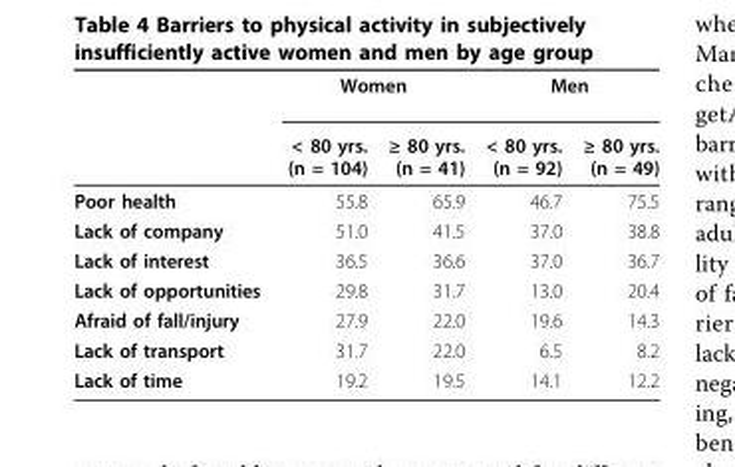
<table><thead><tr><td rowspan="2"></td><td colspan="2">Women</td><td colspan="2">Men</td></tr><tr><td>&lt; 80 yrs. (n = 104)</td><td>≥ 80 yrs. (n = 41)</td><td>&lt; 80 yrs. (n = 92)</td><td>≥ 80 yrs. (n = 49)</td></tr></thead><tbody><tr><td>Poor health</td><td>55.8</td><td>65.9</td><td>46.7</td><td>75.5</td></tr><tr><td>Lack of company</td><td>51.0</td><td>41.5</td><td>37.0</td><td>38.8</td></tr><tr><td>Lack of interest</td><td>36.5</td><td>36.6</td><td>37.0</td><td>36.7</td></tr><tr><td>Lack of opportunities</td><td>29.8</td><td>31.7</td><td>13.0</td><td>20.4</td></tr><tr><td>Afraid of fall/injury</td><td>27.9</td><td>22.0</td><td>19.6</td><td>14.3</td></tr><tr><td>Lack of transport</td><td>31.7</td><td>22.0</td><td>6.5</td><td>8.2</td></tr><tr><td>Lack of time</td><td>19.2</td><td>19.5</td><td>14.1</td><td>12.2</td></tr></tbody></table>